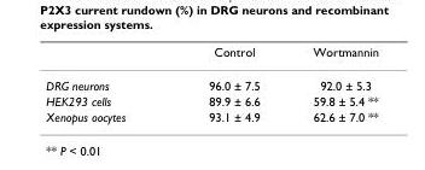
<table><thead><tr><td></td><td>Control</td><td>Wortmannin</td></tr></thead><tbody><tr><td>DRG neurons</td><td>96.0 ± 7.5</td><td>92.0 ± 5.3</td></tr><tr><td>HEK293 cells</td><td>89.9 ± 6.6</td><td>59.8 ± 5.4 **</td></tr><tr><td>Xenopus oocytes</td><td>93.1 ± 4.9</td><td>62.6 ± 7.0 **</td></tr></tbody></table>